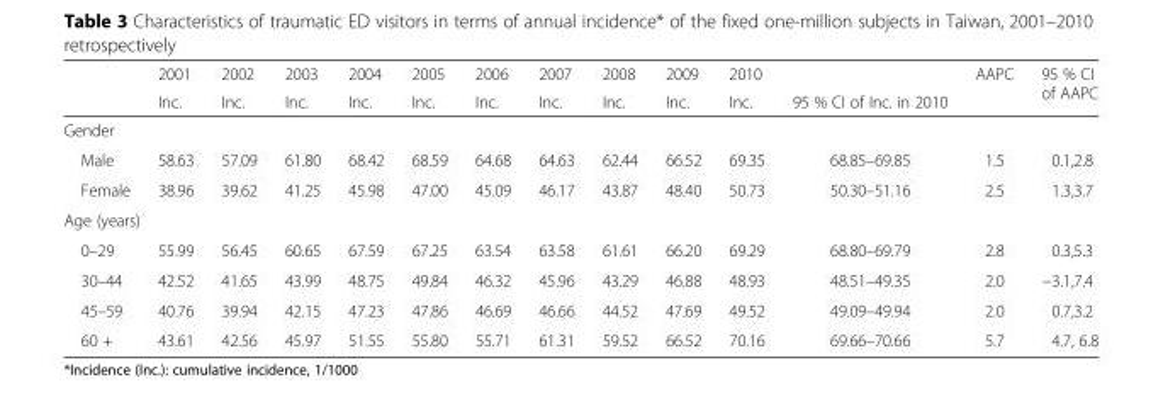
<table><thead><tr><td rowspan="2"></td><td rowspan="2">2001 Inc.</td><td rowspan="2">2002 Inc.</td><td rowspan="2">2003 Inc.</td><td rowspan="2">2004 Inc.</td><td rowspan="2">2005 Inc.</td><td rowspan="2">2006 Inc.</td><td rowspan="2">2007 Inc.</td><td rowspan="2">2008 Inc.</td><td rowspan="2">2009 Inc.</td><td rowspan="2">2010 Inc.</td><td rowspan="2">95 % CI of Inc. in 2010</td><td rowspan="2">AAPC</td><td rowspan="2">95 % CI of AAPC</td></tr><tr></tr></thead><tbody><tr><td colspan="14">Gender</td></tr><tr><td>Male</td><td>58.63</td><td>57.09</td><td>61.80</td><td>68.42</td><td>68.59</td><td>64.68</td><td>64.63</td><td>62.44</td><td>66.52</td><td>69.35</td><td>68.85–69.85</td><td>1.5</td><td>0.1,2.8</td></tr><tr><td>Female</td><td>38.96</td><td>39.62</td><td>41.25</td><td>45.98</td><td>47.00</td><td>45.09</td><td>46.17</td><td>43.87</td><td>48.40</td><td>50.73</td><td>50.30–51.16</td><td>2.5</td><td>1.3,3.7</td></tr><tr><td colspan="14">Age (years)</td></tr><tr><td>0–29</td><td>55.99</td><td>56.45</td><td>60.65</td><td>67.59</td><td>67.25</td><td>63.54</td><td>63.58</td><td>61.61</td><td>66.20</td><td>69.29</td><td>68.80–69.79</td><td>2.8</td><td>0.3,5.3</td></tr><tr><td>30–44</td><td>42.52</td><td>41.65</td><td>43.99</td><td>48.75</td><td>49.84</td><td>46.32</td><td>45.96</td><td>43.29</td><td>46.88</td><td>48.93</td><td>48.51–49.35</td><td>2.0</td><td>−3.1,7.4</td></tr><tr><td>45–59</td><td>40.76</td><td>39.94</td><td>42.15</td><td>47.23</td><td>47.86</td><td>46.69</td><td>46.66</td><td>44.52</td><td>47.69</td><td>49.52</td><td>49.09–49.94</td><td>2.0</td><td>0.7,3.2</td></tr><tr><td>60 +</td><td>43.61</td><td>42.56</td><td>45.97</td><td>51.55</td><td>55.80</td><td>55.71</td><td>61.31</td><td>59.52</td><td>66.52</td><td>70.16</td><td>69.66–70.66</td><td>5.7</td><td>4.7, 6.8</td></tr></tbody></table>